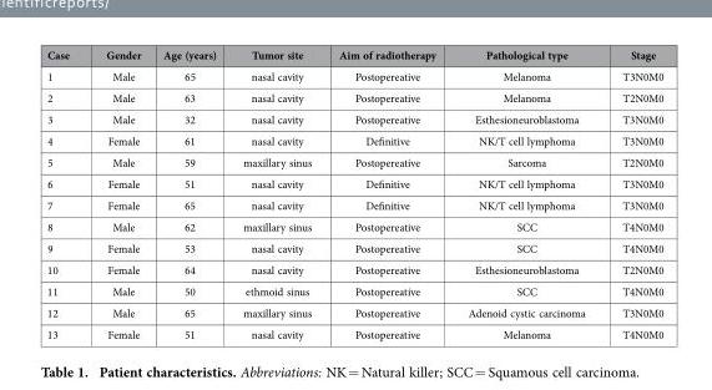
<table><thead><tr><td>Case</td><td>Gender</td><td>Age (years)</td><td>Tumor site</td><td>Aim of radiotherapy</td><td>Pathological type</td><td>Stage</td></tr></thead><tbody><tr><td>1</td><td>Male</td><td>65</td><td>nasal cavity</td><td>Postopereative</td><td>Melanoma</td><td>T3N0M0</td></tr><tr><td>2</td><td>Male</td><td>63</td><td>nasal cavity</td><td>Postopereative</td><td>Melanoma</td><td>T2N0M0</td></tr><tr><td>3</td><td>Male</td><td>32</td><td>nasal cavity</td><td>Postopereative</td><td>Esthesioneuroblastoma</td><td>T3N0M0</td></tr><tr><td>4</td><td>Female</td><td>61</td><td>nasal cavity</td><td>Definitive</td><td>NK/T cell lymphoma</td><td>T3N0M0</td></tr><tr><td>5</td><td>Male</td><td>59</td><td>maxillary sinus</td><td>Postopereative</td><td>Sarcoma</td><td>T2N0M0</td></tr><tr><td>6</td><td>Female</td><td>51</td><td>nasal cavity</td><td>Definitive</td><td>NK/T cell lymphoma</td><td>T3N0M0</td></tr><tr><td>7</td><td>Female</td><td>65</td><td>nasal cavity</td><td>Definitive</td><td>NK/T cell lymphoma</td><td>T3N0M0</td></tr><tr><td>8</td><td>Male</td><td>62</td><td>maxillary sinus</td><td>Postopereative</td><td>SCC</td><td>T4N0M0</td></tr><tr><td>9</td><td>Female</td><td>53</td><td>nasal cavity</td><td>Postopereative</td><td>SCC</td><td>T4N0M0</td></tr><tr><td>10</td><td>Female</td><td>64</td><td>nasal cavity</td><td>Postopereative</td><td>Esthesioneuroblastoma</td><td>T2N0M0</td></tr><tr><td>11</td><td>Male</td><td>50</td><td>ethmoid sinus</td><td>Postopereative</td><td>SCC</td><td>T4N0M0</td></tr><tr><td>12</td><td>Male</td><td>65</td><td>maxillary sinus</td><td>Postopereative</td><td>Adenoid cystic carcinoma</td><td>T3N0M0</td></tr><tr><td>13</td><td>Female</td><td>51</td><td>nasal cavity</td><td>Postopereative</td><td>Melanoma</td><td>T4N0M0</td></tr></tbody></table>